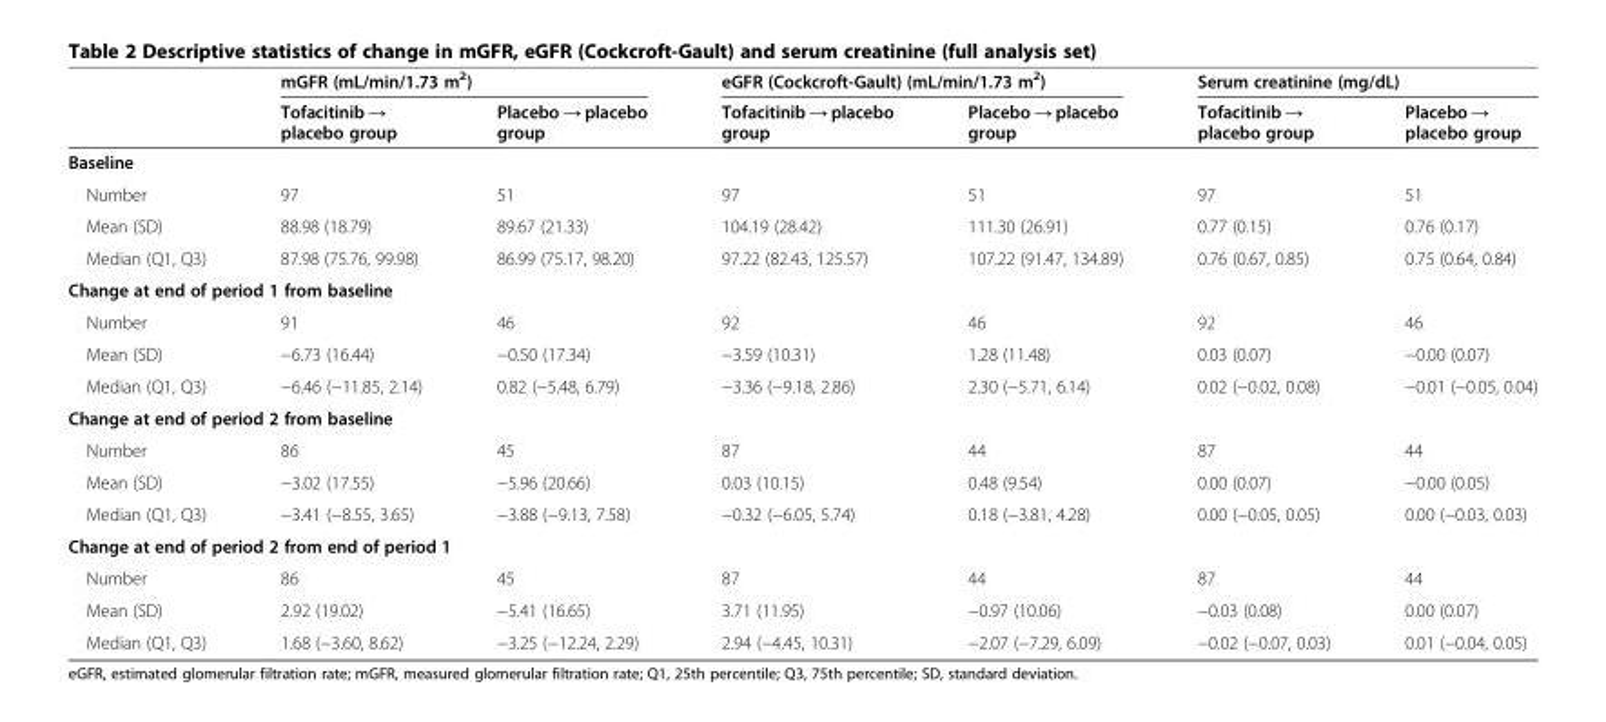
<table><thead><tr><td rowspan="2"></td><td colspan="2">mGFR (mL/min/1.73 m<sup>2</sup>)</td><td colspan="2">eGFR (Cockcroft-Gault) (mL/min/1.73 m<sup>2</sup>)</td><td colspan="2">Serum creatinine (mg/dL)</td></tr><tr><td>Tofacitinib → placebo group</td><td>Placebo → placebo group</td><td>Tofacitinib → placebo group</td><td>Placebo → placebo group</td><td>Tofacitinib → placebo group</td><td>Placebo → placebo group</td></tr></thead><tbody><tr><td colspan="7">Baseline</td></tr><tr><td>Number</td><td>97</td><td>51</td><td>97</td><td>51</td><td>97</td><td>51</td></tr><tr><td>Mean (SD)</td><td>88.98 (18.79)</td><td>89.67 (21.33)</td><td>104.19 (28.42)</td><td>111.30 (26.91)</td><td>0.77 (0.15)</td><td>0.76 (0.17)</td></tr><tr><td>Median (Q1, Q3)</td><td>87.98 (75.76, 99.98)</td><td>86.99 (75.17, 98.20)</td><td>97.22 (82.43, 125.57)</td><td>107.22 (91.47, 134.89)</td><td>0.76 (0.67, 0.85)</td><td>0.75 (0.64, 0.84)</td></tr><tr><td colspan="7">Change at end of period 1 from baseline</td></tr><tr><td>Number</td><td>91</td><td>46</td><td>92</td><td>46</td><td>92</td><td>46</td></tr><tr><td>Mean (SD)</td><td>−6.73 (16.44)</td><td>−0.50 (17.34)</td><td>−3.59 (10.31)</td><td>1.28 (11.48)</td><td>0.03 (0.07)</td><td>−0.00 (0.07)</td></tr><tr><td>Median (Q1, Q3)</td><td>−6.46 (−11.85, 2.14)</td><td>0.82 (−5.48, 6.79)</td><td>−3.36 (−9.18, 2.86)</td><td>2.30 (−5.71, 6.14)</td><td>0.02 (−0.02, 0.08)</td><td>−0.01 (−0.05, 0.04)</td></tr><tr><td colspan="7">Change at end of period 2 from baseline</td></tr><tr><td>Number</td><td>86</td><td>45</td><td>87</td><td>44</td><td>87</td><td>44</td></tr><tr><td>Mean (SD)</td><td>−3.02 (17.55)</td><td>−5.96 (20.66)</td><td>0.03 (10.15)</td><td>0.48 (9.54)</td><td>0.00 (0.07)</td><td>−0.00 (0.05)</td></tr><tr><td>Median (Q1, Q3)</td><td>−3.41 (−8.55, 3.65)</td><td>−3.88 (−9.13, 7.58)</td><td>−0.32 (−6.05, 5.74)</td><td>0.18 (−3.81, 4.28)</td><td>0.00 (−0.05, 0.05)</td><td>0.00 (−0.03, 0.03)</td></tr><tr><td colspan="7">Change at end of period 2 from end of period 1</td></tr><tr><td>Number</td><td>86</td><td>45</td><td>87</td><td>44</td><td>87</td><td>44</td></tr><tr><td>Mean (SD)</td><td>2.92 (19.02)</td><td>−5.41 (16.65)</td><td>3.71 (11.95)</td><td>−0.97 (10.06)</td><td>−0.03 (0.08)</td><td>0.00 (0.07)</td></tr><tr><td>Median (Q1, Q3)</td><td>1.68 (−3.60, 8.62)</td><td>−3.25 (−12.24, 2.29)</td><td>2.94 (−4.45, 10.31)</td><td>−2.07 (−7.29, 6.09)</td><td>−0.02 (−0.07, 0.03)</td><td>0.01 (−0.04, 0.05)</td></tr></tbody></table>